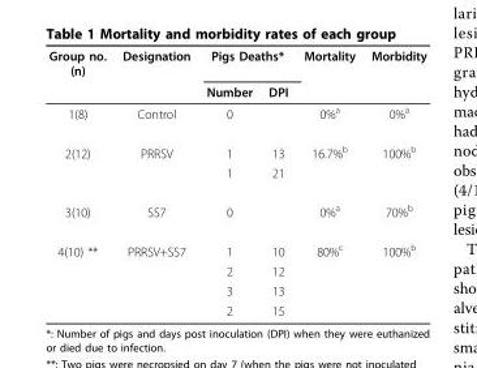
<table><thead><tr><td rowspan="2">Group no. (n)</td><td rowspan="2">Designation</td><td colspan="2">Pigs Deaths*</td><td rowspan="2">Mortality</td><td rowspan="2">Morbidity</td></tr><tr><td>Number</td><td>DPI</td></tr></thead><tbody><tr><td>1(8)</td><td>Control</td><td>0</td><td></td><td>0%<sup>a</sup></td><td>0%<sup>a</sup></td></tr><tr><td rowspan="2">2(12)</td><td>PRRSV</td><td>1</td><td>13</td><td>16.7%<sup>b</sup></td><td>100%<sup>b</sup></td></tr><tr><td></td><td>1</td><td>21</td><td></td><td></td></tr><tr><td>3(10)</td><td>SS7</td><td>0</td><td></td><td>0%<sup>a</sup></td><td>70%<sup>b</sup></td></tr><tr><td rowspan="4">4(10) **</td><td>PRRSV+SS7</td><td>1</td><td>10</td><td>80%<sup>c</sup></td><td>100%<sup>b</sup></td></tr><tr><td></td><td>2</td><td>12</td><td></td><td></td></tr><tr><td></td><td>3</td><td>13</td><td></td><td></td></tr><tr><td></td><td>2</td><td>15</td><td></td><td></td></tr></tbody></table>